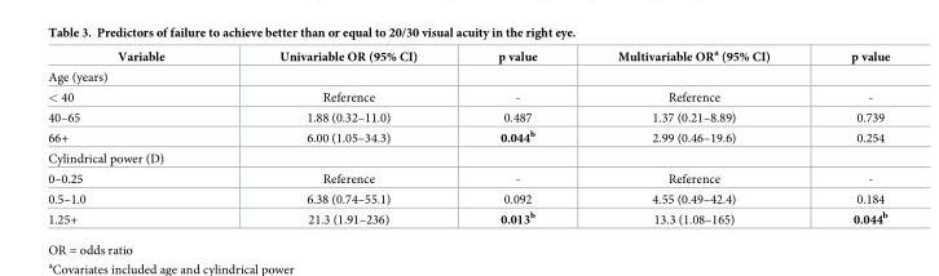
<table><thead><tr><td>Variable</td><td>Univariable OR (95% CI)</td><td>p value</td><td>Multivariable OR<sup>a</sup> (95% CI)</td><td>p value</td></tr></thead><tbody><tr><td colspan="5">Age (years)</td></tr><tr><td>&lt; 40</td><td>Reference</td><td>-</td><td>Reference</td><td>-</td></tr><tr><td>40–65</td><td>1.88 (0.32–11.0)</td><td>0.487</td><td>1.37 (0.21–8.89)</td><td>0.739</td></tr><tr><td>66+</td><td>6.00 (1.05–34.3)</td><td>0.044<sup>b</sup></td><td>2.99 (0.46–19.6)</td><td>0.254</td></tr><tr><td colspan="5">Cylindrical power (D)</td></tr><tr><td>0–0.25</td><td>Reference</td><td>-</td><td>Reference</td><td>-</td></tr><tr><td>0.5–1.0</td><td>6.38 (0.74–55.1)</td><td>0.092</td><td>4.55 (0.49–42.4)</td><td>0.184</td></tr><tr><td>1.25+</td><td>21.3 (1.91–236)</td><td>0.013<sup>b</sup></td><td>13.3 (1.08–165)</td><td>0.044<sup>b</sup></td></tr></tbody></table>